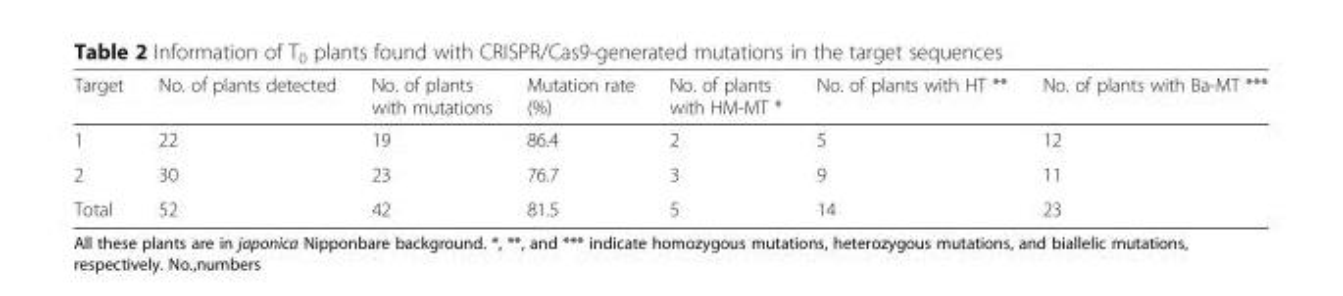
<table><thead><tr><td>Target</td><td>No. of plants detected</td><td>No. of plants with mutations</td><td>Mutation rate (%)</td><td>No. of plants with HM-MT *</td><td>No. of plants with HT **</td><td>No. of plants with Ba-MT ***</td></tr></thead><tbody><tr><td>1</td><td>22</td><td>19</td><td>86.4</td><td>2</td><td>5</td><td>12</td></tr><tr><td>2</td><td>30</td><td>23</td><td>76.7</td><td>3</td><td>9</td><td>11</td></tr><tr><td>Total</td><td>52</td><td>42</td><td>81.5</td><td>5</td><td>14</td><td>23</td></tr></tbody></table>